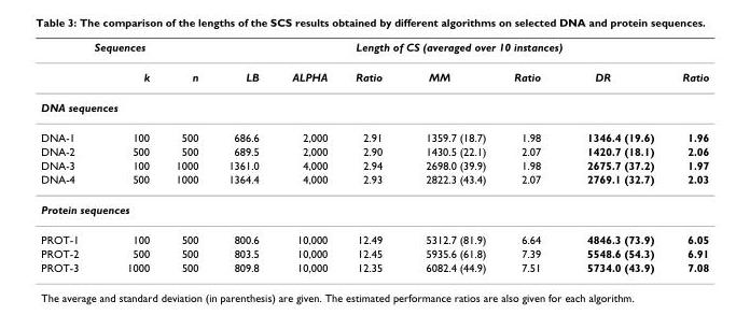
<table><thead><tr><td colspan="3">Sequences</td><td colspan="7">Length of CS (averaged over 10 instances)</td></tr><tr><td></td><td>k</td><td>n</td><td>LB</td><td>ALPHA</td><td>Ratio</td><td>MM</td><td>Ratio</td><td>DR</td><td>Ratio</td></tr></thead><tbody><tr><td colspan="10">DNA sequences</td></tr><tr><td>DNA-1</td><td>100</td><td>500</td><td>686.6</td><td>2,000</td><td>2.91</td><td>1359.7 (18.7)</td><td>1.98</td><td>1346.4 (19.6)</td><td>1.96</td></tr><tr><td>DNA-2</td><td>500</td><td>500</td><td>689.5</td><td>2,000</td><td>2.90</td><td>1430.5 (22.1)</td><td>2.07</td><td>1420.7 (18.1)</td><td>2.06</td></tr><tr><td>DNA-3</td><td>100</td><td>1000</td><td>1361.0</td><td>4,000</td><td>2.94</td><td>2698.0 (39.9)</td><td>1.98</td><td>2675.7 (37.2)</td><td>1.97</td></tr><tr><td>DNA-4</td><td>500</td><td>1000</td><td>1364.4</td><td>4,000</td><td>2.93</td><td>2822.3 (43.4)</td><td>2.07</td><td>2769.1 (32.7)</td><td>2.03</td></tr><tr><td colspan="10">Protein sequences</td></tr><tr><td>PROT-1</td><td>100</td><td>500</td><td>800.6</td><td>10,000</td><td>12.49</td><td>5312.7 (81.9)</td><td>6.64</td><td>4846.3 (73.9)</td><td>6.05</td></tr><tr><td>PROT-2</td><td>500</td><td>500</td><td>803.5</td><td>10,000</td><td>12.45</td><td>5935.6 (61.8)</td><td>7.39</td><td>5548.6 (54.3)</td><td>6.91</td></tr><tr><td>PROT-3</td><td>1000</td><td>500</td><td>809.8</td><td>10,000</td><td>12.35</td><td>6082.4 (44.9)</td><td>7.51</td><td>5734.0 (43.9)</td><td>7.08</td></tr></tbody></table>